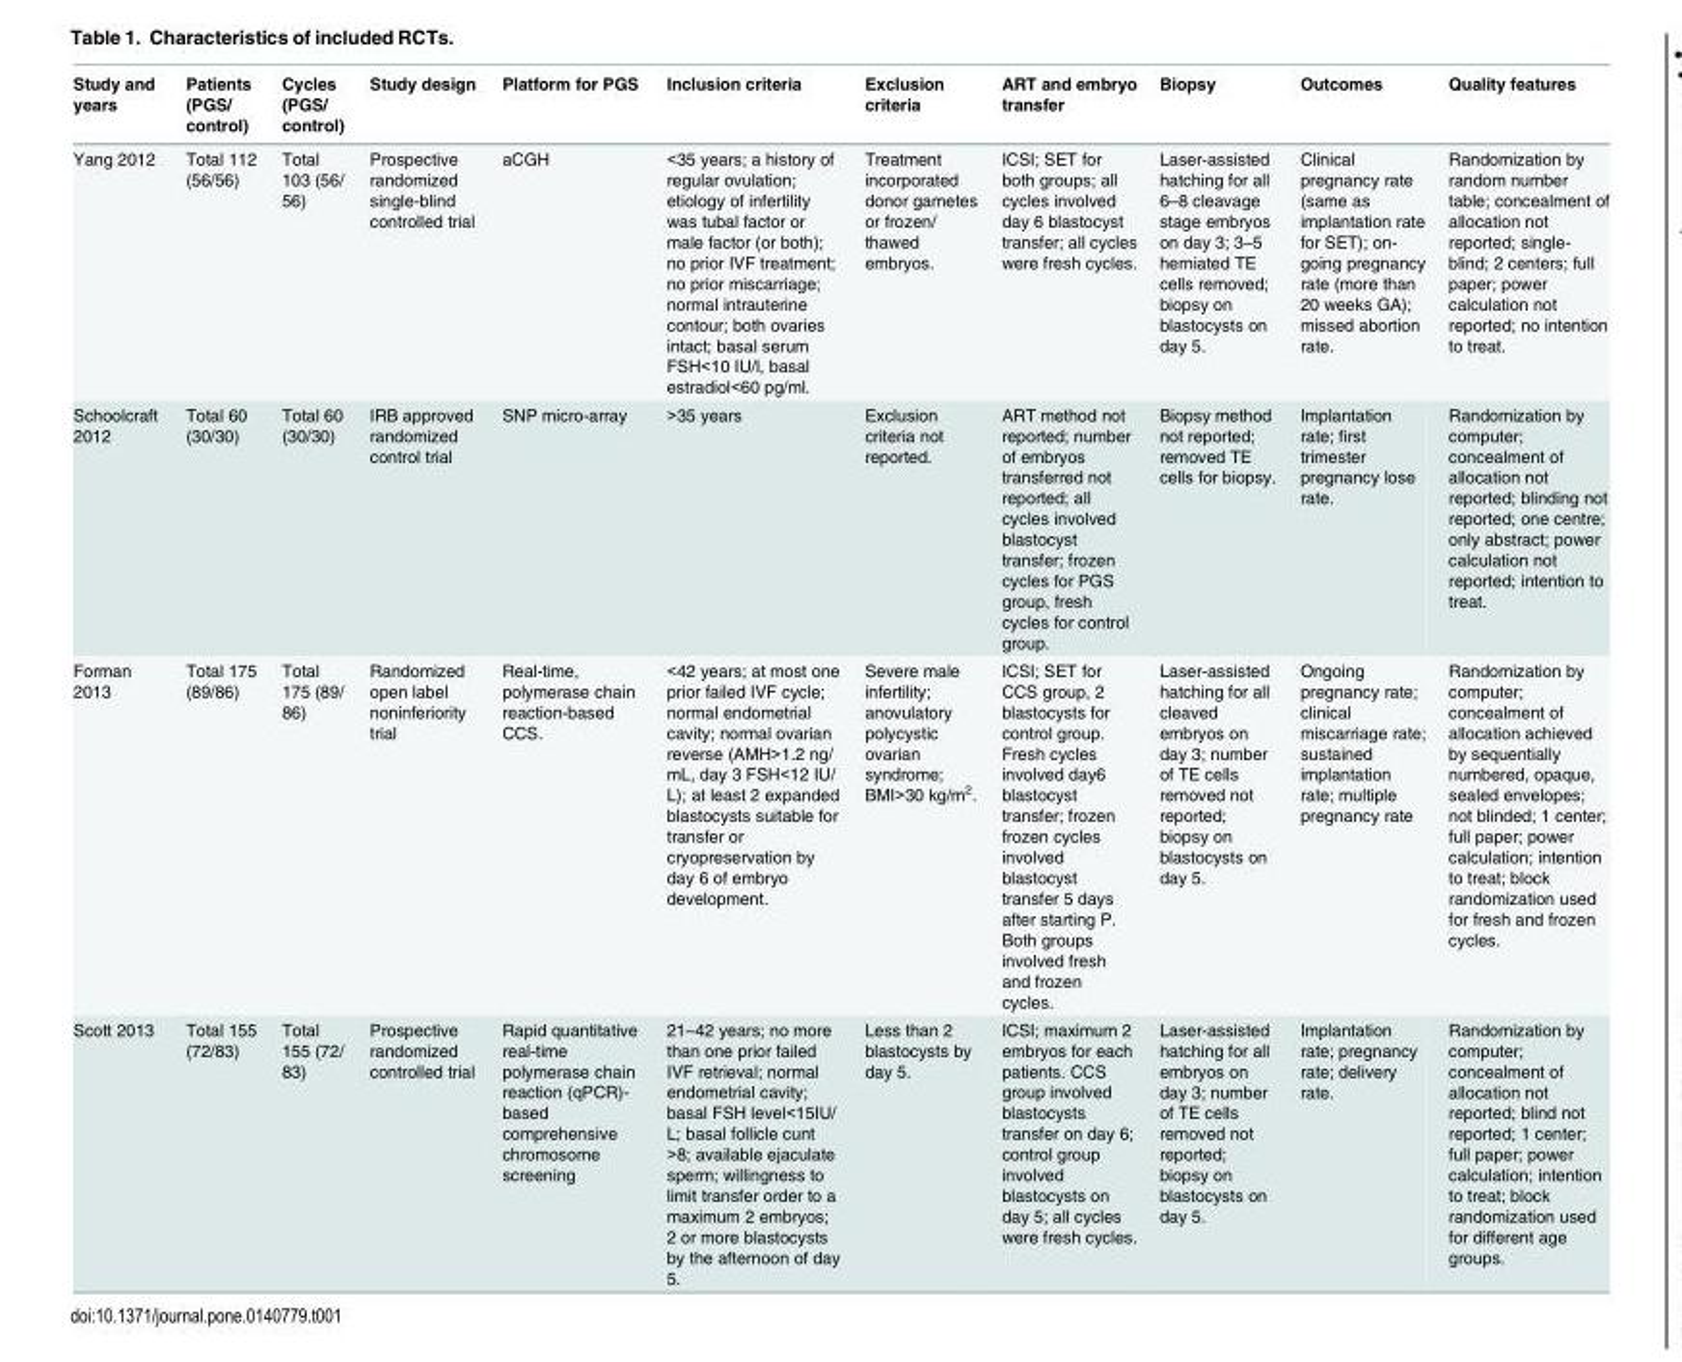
<table><thead><tr><td>Study and years</td><td>Patients (PGS/ control)</td><td>Cycles (PGS/ control)</td><td>Study design</td><td>Platform for PGS</td><td>Inclusion criteria</td><td>Exclusion criteria</td><td>ART and embryo transfer</td><td>Biopsy</td><td>Outcomes</td><td>Quality features</td></tr></thead><tbody><tr><td>Yang 2012</td><td>Total 112 (56/56)</td><td>Total 103 (56/ 56)</td><td>Prospective randomized single-blind controlled trial</td><td>aCGH</td><td>&lt;35 years; a history of regular ovulation; etiology of infertility was tubal factor or male factor (or both); no prior IVF treatment; no prior miscarriage; normal intrauterine contour; both ovaries intact; basal serum FSH&lt;10 IU/l, basal estradiol&lt;60 pg/ml.</td><td>Treatment incorporated donor gametes or frozen/ thawed embryos.</td><td>ICSI; SET for both groups; all cycles involved day 6 blastocyst transfer; all cycles were fresh cycles.</td><td>Laser-assisted hatching for all 6–8 cleavage stage embryos on day 3; 3–5 herniated TE cells removed; biopsy on blastocysts on day 5.</td><td>Clinical pregnancy rate (same as implantation rate for SET); on- going pregnancy rate (more than 20 weeks GA); missed abortion rate.</td><td>Randomization by random number table; concealment of allocation not reported; single- blind; 2 centers; full paper; power calculation not reported; no intention to treat.</td></tr><tr><td>Schoolcraft 2012</td><td>Total 60 (30/30)</td><td>Total 60 (30/30)</td><td>IRB approved randomized control trial</td><td>SNP micro-array</td><td>&gt;35 years</td><td>Exclusion criteria not reported.</td><td>ART method not reported; number of embryos transferred not reported; all cycles involved blastocyst transfer; frozen cycles for PGS group, fresh cycles for control group.</td><td>Biopsy method not reported; removed TE cells for biopsy.</td><td>Implantation rate; first trimester pregnancy lose rate.</td><td>Randomization by computer; concealment of allocation not reported; blinding not reported; one centre; only abstract; power calculation not reported; intention to treat.</td></tr><tr><td>Forman 2013</td><td>Total 175 (89/86)</td><td>Total 175 (89/ 86)</td><td>Randomized open label noninferiority trial</td><td>Real-time, polymerase chain reaction-based CCS.</td><td>&lt;42 years; at most one prior failed IVF cycle; normal endometrial cavity; normal ovarian reverse (AMH&gt;1.2 ng/ mL, day 3 FSH&lt;12 IU/ L); at least 2 expanded blastocysts suitable for transfer or cryopreservation by day 6 of embryo development.</td><td>Severe male infertility; anovulatory polycystic ovarian syndrome; BMI&gt;30 kg/m<sup>2</sup>.</td><td>ICSI; SET for CCS group, 2 blastocysts for control group. Fresh cycles involved day6 blastocyst transfer; frozen frozen cycles involved blastocyst transfer 5 days after starting P. Both groups involved fresh and frozen cycles.</td><td>Laser-assisted hatching for all cleaved embryos on day 3; number of TE cells removed not reported; biopsy on blastocysts on day 5.</td><td>Ongoing pregnancy rate; clinical miscarriage rate; sustained implantation rate; multiple pregnancy rate</td><td>Randomization by computer; concealment of allocation achieved by sequentially numbered, opaque, sealed envelopes; not blinded; 1 center; full paper; power calculation; intention to treat; block randomization used for fresh and frozen cycles.</td></tr><tr><td>Scott 2013</td><td>Total 155 (72/83)</td><td>Total 155 (72/ 83)</td><td>Prospective randomized controlled trial</td><td>Rapid quantitative real-time polymerase chain reaction (qPCR)- based comprehensive chromosome screening</td><td>21–42 years; no more than one prior failed IVF retrieval; normal endometrial cavity; basal FSH level&lt;15IU/ L; basal follicle cunt &gt;8; available ejaculate sperm; willingness to limit transfer order to a maximum 2 embryos; 2 or more blastocysts by the afternoon of day 5.</td><td>Less than 2 blastocysts by day 5.</td><td>ICSI; maximum 2 embryos for each patients. CCS group involved blastocysts transfer on day 6; control group involved blastocysts on day 5; all cycles were fresh cycles.</td><td>Laser-assisted hatching for all embryos on day 3; number of TE cells removed not reported; biopsy on blastocysts on day 5.</td><td>Implantation rate; pregnancy rate; delivery rate.</td><td>Randomization by computer; concealment of allocation not reported; blind not reported; 1 center; full paper; power calculation; intention to treat; block randomization used for different age groups.</td></tr></tbody></table>